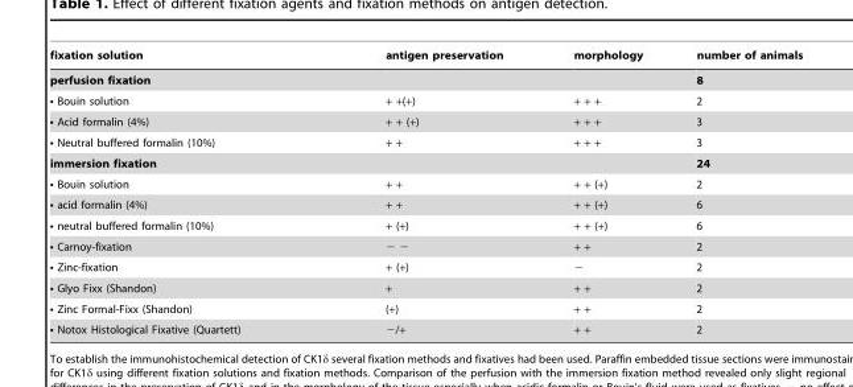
<table><thead><tr><td>fixation solution</td><td>antigen preservation</td><td>morphology</td><td>number of animals</td></tr></thead><tbody><tr><td colspan="3">perfusion fixation</td><td>8</td></tr><tr><td>• Bouin solution</td><td>+ +(+)</td><td>+ + +</td><td>2</td></tr><tr><td>• Acid formalin (4%)</td><td>+ + (+)</td><td>+ + +</td><td>3</td></tr><tr><td>• Neutral buffered formalin (10%)</td><td>+ +</td><td>+ + +</td><td>3</td></tr><tr><td colspan="3">immersion fixation</td><td>24</td></tr><tr><td>• Bouin solution</td><td>+ +</td><td>+ + (+)</td><td>2</td></tr><tr><td>• acid formalin (4%)</td><td>+ +</td><td>+ + (+)</td><td>6</td></tr><tr><td>• neutral buffered formalin (10%)</td><td>+ (+)</td><td>+ + (+)</td><td>6</td></tr><tr><td>• Carnoy-fixation</td><td>− −</td><td>+ +</td><td>2</td></tr><tr><td>• Zinc-fixation</td><td>+ (+)</td><td>−</td><td>2</td></tr><tr><td>• Glyo Fixx (Shandon)</td><td>+</td><td>+ +</td><td>2</td></tr><tr><td>• Zinc Formal-Fixx (Shandon)</td><td>(+)</td><td>+ +</td><td>2</td></tr><tr><td>• Notox Histological Fixative (Quartett)</td><td>−/+</td><td>+ +</td><td>2</td></tr></tbody></table>